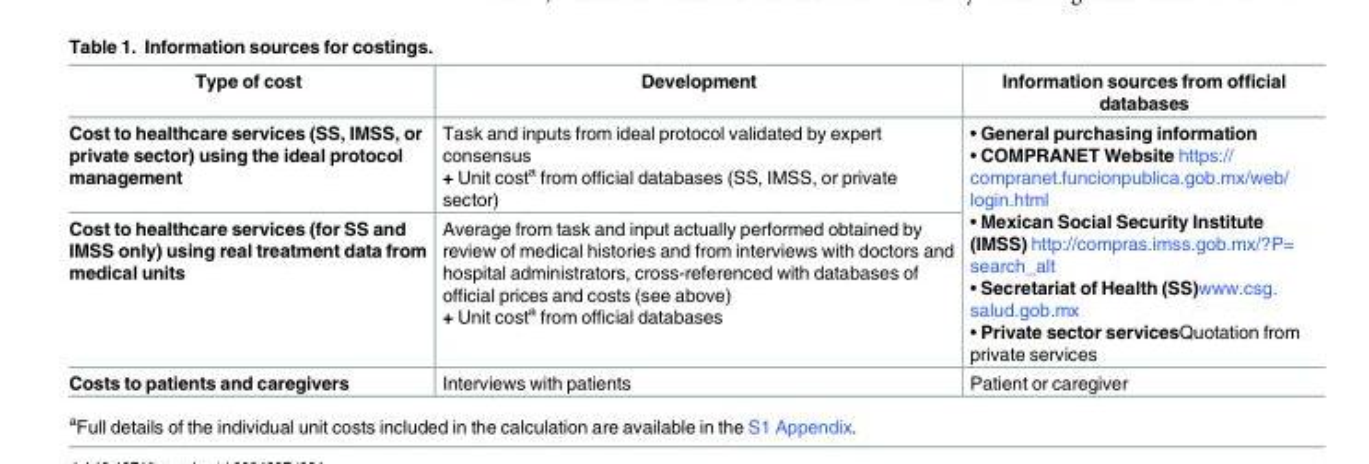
<table><thead><tr><td>Type of cost</td><td>Development</td><td>Information sources from official databases</td></tr></thead><tbody><tr><td>Cost to healthcare services (SS, IMSS, or private sector) using the ideal protocol management</td><td>Task and inputs from ideal protocol validated by expert consensus + Unit cost<sup>a</sup> from official databases (SS, IMSS, or private sector)</td><td rowspan="2">• General purchasing information • COMPRANET Website https:// compranet.funcionpublica.gob.mx/web/ login.html • Mexican Social Security Institute (IMSS) http://compras.imss.gob.mx/?P= search_alt • Secretariat of Health (SS)www.csg. salud.gob.mx • Private sector servicesQuotation from private services</td></tr><tr><td>Cost to healthcare services (for SS and IMSS only) using real treatment data from medical units</td><td>Average from task and input actually performed obtained by review of medical histories and from interviews with doctors and hospital administrators, cross-referenced with databases of official prices and costs (see above) + Unit cost<sup>a</sup> from official databases</td></tr><tr><td>Costs to patients and caregivers</td><td>Interviews with patients</td><td>Patient or caregiver</td></tr></tbody></table>